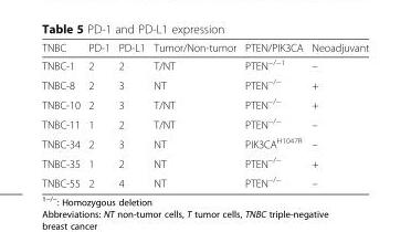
<table><thead><tr><td>TNBC</td><td>PD-1</td><td>PD-L1</td><td>Tumor/Non-tumor</td><td>PTEN/PIK3CA</td><td>Neoadjuvant</td></tr></thead><tbody><tr><td>TNBC-1</td><td>2</td><td>2</td><td>T/NT</td><td>PTEN<sup>−/−1</sup></td><td>–</td></tr><tr><td>TNBC-8</td><td>2</td><td>3</td><td>NT</td><td>PTEN<sup>−/−</sup></td><td>+</td></tr><tr><td>TNBC-10</td><td>2</td><td>3</td><td>T/NT</td><td>PTEN<sup>−/−</sup></td><td>+</td></tr><tr><td>TNBC-11</td><td>1</td><td>2</td><td>T/NT</td><td>PTEN<sup>−/−</sup></td><td>–</td></tr><tr><td>TNBC-34</td><td>2</td><td>3</td><td>NT</td><td>PIK3CA<sup>H1047R</sup></td><td>–</td></tr><tr><td>TNBC-35</td><td>1</td><td>2</td><td>NT</td><td>PTEN<sup>−/−</sup></td><td>+</td></tr><tr><td>TNBC-55</td><td>2</td><td>4</td><td>NT</td><td>PTEN<sup>−/−</sup></td><td>–</td></tr></tbody></table>